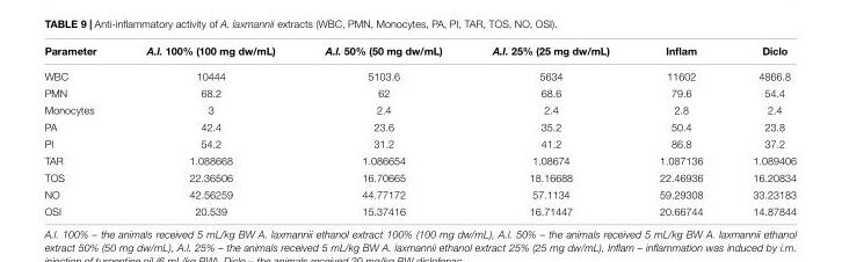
<table><thead><tr><td>Parameter</td><td>A.l. 100% (100 mg dw/mL)</td><td>A.l. 50% (50 mg dw/mL)</td><td>A.l. 25% (25 mg dw/mL)</td><td>Inflam</td><td>Diclo</td></tr></thead><tbody><tr><td>WBC</td><td>10444</td><td>5103.6</td><td>5634</td><td>11602</td><td>4866.8</td></tr><tr><td>PMN</td><td>68.2</td><td>62</td><td>68.6</td><td>79.6</td><td>54.4</td></tr><tr><td>Monocytes</td><td>3</td><td>2.4</td><td>2.4</td><td>2.8</td><td>2.4</td></tr><tr><td>PA</td><td>42.4</td><td>23.6</td><td>35.2</td><td>50.4</td><td>23.8</td></tr><tr><td>PI</td><td>54.2</td><td>31.2</td><td>41.2</td><td>86.8</td><td>37.2</td></tr><tr><td>TAR</td><td>1.088668</td><td>1.086654</td><td>1.08674</td><td>1.087136</td><td>1.089406</td></tr><tr><td>TOS</td><td>22.36506</td><td>16.70665</td><td>18.16688</td><td>22.46936</td><td>16.20834</td></tr><tr><td>NO</td><td>42.56259</td><td>44.77172</td><td>57.1134</td><td>59.29308</td><td>33.23183</td></tr><tr><td>OSI</td><td>20.539</td><td>15.37416</td><td>16.71447</td><td>20.66744</td><td>14.87844</td></tr></tbody></table>